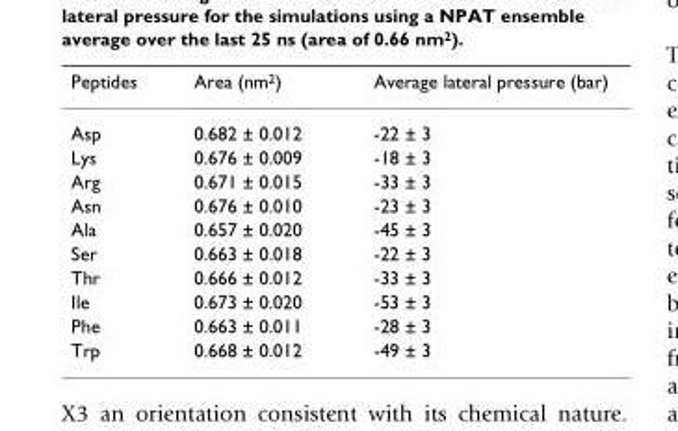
<table><thead><tr><td>Peptides</td><td>Area (nm<sup>2</sup>)</td><td>Average lateral pressure (bar)</td></tr></thead><tbody><tr><td>Asp</td><td>0.682 ± 0.012</td><td>-22 ± 3</td></tr><tr><td>Lys</td><td>0.676 ± 0.009</td><td>-18 ± 3</td></tr><tr><td>Arg</td><td>0.671 ± 0.015</td><td>-33 ± 3</td></tr><tr><td>Asn</td><td>0.676 ± 0.010</td><td>-23 ± 3</td></tr><tr><td>Ala</td><td>0.657 ± 0.020</td><td>-45 ± 3</td></tr><tr><td>Ser</td><td>0.663 ± 0.018</td><td>-22 ± 3</td></tr><tr><td>Thr</td><td>0.666 ± 0.012</td><td>-33 ± 3</td></tr><tr><td>Ile</td><td>0.673 ± 0.020</td><td>-53 ± 3</td></tr><tr><td>Phe</td><td>0.663 ± 0.011</td><td>-28 ± 3</td></tr><tr><td>Trp</td><td>0.668 ± 0.012</td><td>-49 ± 3</td></tr></tbody></table>